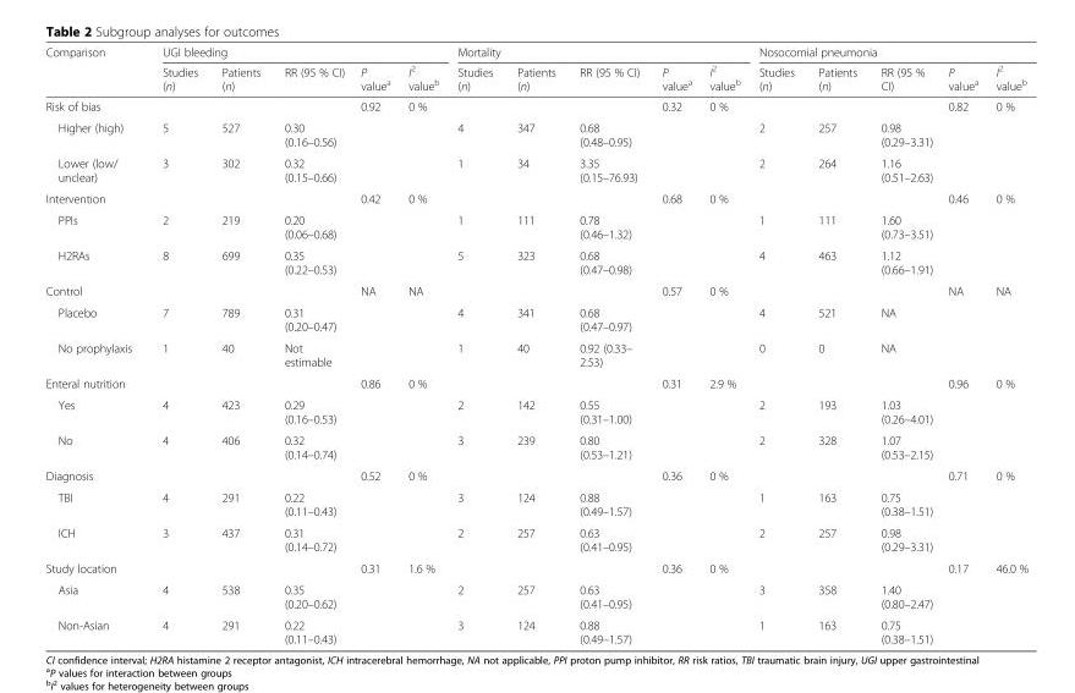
<table><thead><tr><td rowspan="2">Comparison</td><td colspan="5">UGI bleeding</td><td colspan="5">Mortality</td><td colspan="5">Nosocomial pneumonia</td></tr><tr><td>Studies (n)</td><td>Patients (n)</td><td>RR (95 % CI)</td><td>P value<sup>a</sup></td><td>I<sup>2</sup> value<sup>b</sup></td><td>Studies (n)</td><td>Patients (n)</td><td>RR (95 % CI)</td><td>P value<sup>a</sup></td><td>I<sup>2</sup> value<sup>b</sup></td><td>Studies (n)</td><td>Patients (n)</td><td>RR (95 % CI)</td><td>P value<sup>a</sup></td><td>I<sup>2</sup> value<sup>b</sup></td></tr></thead><tbody><tr><td>Risk of bias</td><td></td><td></td><td></td><td>0.92</td><td>0 %</td><td></td><td></td><td></td><td>0.32</td><td>0 %</td><td></td><td></td><td></td><td>0.82</td><td>0 %</td></tr><tr><td>Higher (high)</td><td>5</td><td>527</td><td>0.30 (0.16–0.56)</td><td></td><td></td><td>4</td><td>347</td><td>0.68 (0.48–0.95)</td><td></td><td></td><td>2</td><td>257</td><td>0.98 (0.29–3.31)</td><td></td><td></td></tr><tr><td>Lower (low/ unclear)</td><td>3</td><td>302</td><td>0.32 (0.15–0.66)</td><td></td><td></td><td>1</td><td>34</td><td>3.35 (0.15–76.93)</td><td></td><td></td><td>2</td><td>264</td><td>1.16 (0.51–2.63)</td><td></td><td></td></tr><tr><td>Intervention</td><td></td><td></td><td></td><td>0.42</td><td>0 %</td><td></td><td></td><td></td><td>0.68</td><td>0 %</td><td></td><td></td><td></td><td>0.46</td><td>0 %</td></tr><tr><td>PPIs</td><td>2</td><td>219</td><td>0.20 (0.06–0.68)</td><td></td><td></td><td>1</td><td>111</td><td>0.78 (0.46–1.32)</td><td></td><td></td><td>1</td><td>111</td><td>1.60 (0.73–3.51)</td><td></td><td></td></tr><tr><td>H2RAs</td><td>8</td><td>699</td><td>0.35 (0.22–0.53)</td><td></td><td></td><td>5</td><td>323</td><td>0.68 (0.47–0.98)</td><td></td><td></td><td>4</td><td>463</td><td>1.12 (0.66–1.91)</td><td></td><td></td></tr><tr><td>Control</td><td></td><td></td><td></td><td>NA</td><td>NA</td><td></td><td></td><td></td><td>0.57</td><td>0 %</td><td></td><td></td><td></td><td>NA</td><td>NA</td></tr><tr><td>Placebo</td><td>7</td><td>789</td><td>0.31 (0.20–0.47)</td><td></td><td></td><td>4</td><td>341</td><td>0.68 (0.47–0.97)</td><td></td><td></td><td>4</td><td>521</td><td>NA</td><td></td><td></td></tr><tr><td>No prophylaxis</td><td>1</td><td>40</td><td>Not estimable</td><td></td><td></td><td>1</td><td>40</td><td>0.92 (0.33– 2.53)</td><td></td><td></td><td>0</td><td>0</td><td>NA</td><td></td><td></td></tr><tr><td>Enteral nutrition</td><td></td><td></td><td></td><td>0.86</td><td>0 %</td><td></td><td></td><td></td><td>0.31</td><td>2.9 %</td><td></td><td></td><td></td><td>0.96</td><td>0 %</td></tr><tr><td>Yes</td><td>4</td><td>423</td><td>0.29 (0.16–0.53)</td><td></td><td></td><td>2</td><td>142</td><td>0.55 (0.31–1.00)</td><td></td><td></td><td>2</td><td>193</td><td>1.03 (0.26–4.01)</td><td></td><td></td></tr><tr><td>No</td><td>4</td><td>406</td><td>0.32 (0.14–0.74)</td><td></td><td></td><td>3</td><td>239</td><td>0.80 (0.53–1.21)</td><td></td><td></td><td>2</td><td>328</td><td>1.07 (0.53–2.15)</td><td></td><td></td></tr><tr><td>Diagnosis</td><td></td><td></td><td></td><td>0.52</td><td>0 %</td><td></td><td></td><td></td><td>0.36</td><td>0 %</td><td></td><td></td><td></td><td>0.71</td><td>0 %</td></tr><tr><td>TBI</td><td>4</td><td>291</td><td>0.22 (0.11–0.43)</td><td></td><td></td><td>3</td><td>124</td><td>0.88 (0.49–1.57)</td><td></td><td></td><td>1</td><td>163</td><td>0.75 (0.38–1.51)</td><td></td><td></td></tr><tr><td>ICH</td><td>3</td><td>437</td><td>0.31 (0.14–0.72)</td><td></td><td></td><td>2</td><td>257</td><td>0.63 (0.41–0.95)</td><td></td><td></td><td>2</td><td>257</td><td>0.98 (0.29–3.31)</td><td></td><td></td></tr><tr><td>Study location</td><td></td><td></td><td></td><td>0.31</td><td>1.6 %</td><td></td><td></td><td></td><td>0.36</td><td>0 %</td><td></td><td></td><td></td><td>0.17</td><td>46.0 %</td></tr><tr><td>Asia</td><td>4</td><td>538</td><td>0.35 (0.20–0.62)</td><td></td><td></td><td>2</td><td>257</td><td>0.63 (0.41–0.95)</td><td></td><td></td><td>3</td><td>358</td><td>1.40 (0.80–2.47)</td><td></td><td></td></tr><tr><td>Non-Asian</td><td>4</td><td>291</td><td>0.22 (0.11–0.43)</td><td></td><td></td><td>3</td><td>124</td><td>0.88 (0.49–1.57)</td><td></td><td></td><td>1</td><td>163</td><td>0.75 (0.38–1.51)</td><td></td><td></td></tr></tbody></table>